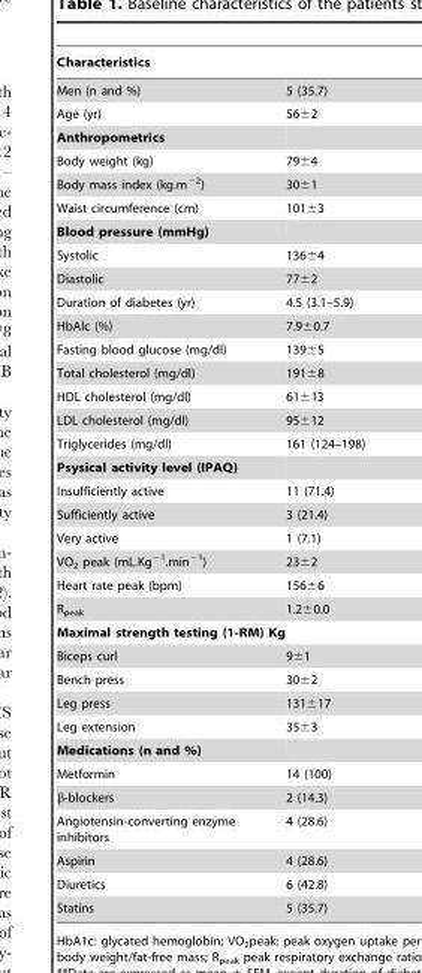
<table><thead><tr><td>Characteristics</td><td></td></tr></thead><tbody><tr><td>Men (n and %)</td><td>5 (35.7)</td></tr><tr><td>Age (yr)</td><td>56±2</td></tr><tr><td colspan="2">Anthropometrics</td></tr><tr><td>Body weight (kg)</td><td>79±4</td></tr><tr><td>Body mass index (kg.m<sup>−2</sup>)</td><td>30±1</td></tr><tr><td>Waist circumference (cm)</td><td>101±3</td></tr><tr><td colspan="2">Blood pressure (mmHg)</td></tr><tr><td>Systolic</td><td>136±4</td></tr><tr><td>Diastolic</td><td>77±2</td></tr><tr><td>Duration of diabetes (yr)</td><td>4.5 (3.1–5.9)</td></tr><tr><td>HbAlc (%)</td><td>7.9±0.7</td></tr><tr><td>Fasting blood glucose (mg/dl)</td><td>139±5</td></tr><tr><td>Total cholesterol (mg/dl)</td><td>191±8</td></tr><tr><td>HDL cholesterol (mg/dl)</td><td>61±13</td></tr><tr><td>LDL cholesterol (mg/dl)</td><td>95±12</td></tr><tr><td>Triglycerides (mg/dl)</td><td>161 (124–198)</td></tr><tr><td colspan="2">Psysical activity level (IPAQ)</td></tr><tr><td>Insufficiently active</td><td>11 (71.4)</td></tr><tr><td>Sufficiently active</td><td>3 (21.4)</td></tr><tr><td>Very active</td><td>1 (7.1)</td></tr><tr><td>VO<sub>2</sub> peak (mL.Kg<sup>−1</sup>.min<sup>−1</sup>)</td><td>23±2</td></tr><tr><td>Heart rate peak (bpm)</td><td>156±6</td></tr><tr><td>R<sub>peak</sub></td><td>1.2±0.0</td></tr><tr><td colspan="2">Maximal strength testing (1-RM) Kg</td></tr><tr><td>Biceps curl</td><td>9±1</td></tr><tr><td>Bench press</td><td>30±2</td></tr><tr><td>Leg press</td><td>131±17</td></tr><tr><td>Leg extension</td><td>35±3</td></tr><tr><td colspan="2">Medications (n and %)</td></tr><tr><td>Metformin</td><td>14 (100)</td></tr><tr><td>β-blockers</td><td>2 (14.3)</td></tr><tr><td>Angiotensin-converting enzyme inhibitors</td><td>4 (28.6)</td></tr><tr><td>Aspirin</td><td>4 (28.6)</td></tr><tr><td>Diuretics</td><td>6 (42.8)</td></tr><tr><td>Statins</td><td>5 (35.7)</td></tr></tbody></table>